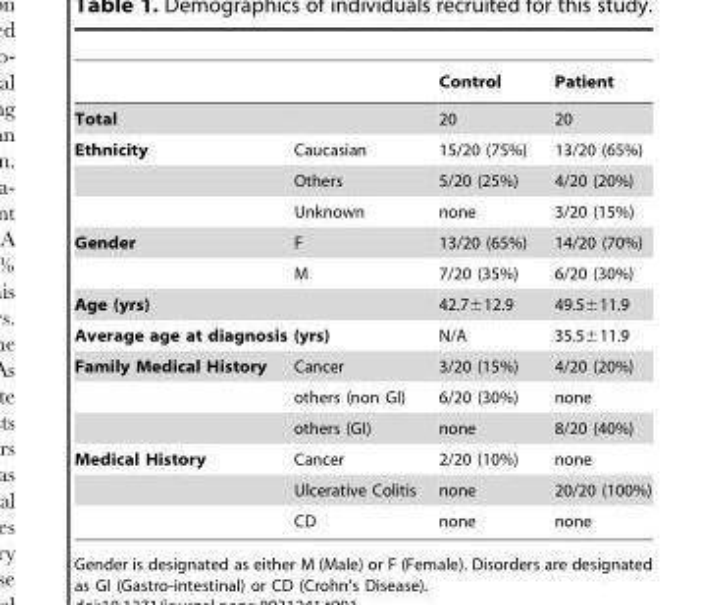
<table><thead><tr><td></td><td></td><td>Control</td><td>Patient</td></tr></thead><tbody><tr><td colspan="2">Total</td><td>20</td><td>20</td></tr><tr><td rowspan="3">Ethnicity</td><td>Caucasian</td><td>15/20 (75%)</td><td>13/20 (65%)</td></tr><tr><td>Others</td><td>5/20 (25%)</td><td>4/20 (20%)</td></tr><tr><td>Unknown</td><td>none</td><td>3/20 (15%)</td></tr><tr><td rowspan="2">Gender</td><td>F</td><td>13/20 (65%)</td><td>14/20 (70%)</td></tr><tr><td>M</td><td>7/20 (35%)</td><td>6/20 (30%)</td></tr><tr><td colspan="2">Age (yrs)</td><td>42.7±12.9</td><td>49.5±11.9</td></tr><tr><td colspan="2">Average age at diagnosis (yrs)</td><td>N/A</td><td>35.5±11.9</td></tr><tr><td rowspan="3">Family Medical History</td><td>Cancer</td><td>3/20 (15%)</td><td>4/20 (20%)</td></tr><tr><td>others (non GI)</td><td>6/20 (30%)</td><td>none</td></tr><tr><td>others (GI)</td><td>none</td><td>8/20 (40%)</td></tr><tr><td rowspan="3">Medical History</td><td>Cancer</td><td>2/20 (10%)</td><td>none</td></tr><tr><td>Ulcerative Colitis</td><td>none</td><td>20/20 (100%)</td></tr><tr><td>CD</td><td>none</td><td>none</td></tr></tbody></table>